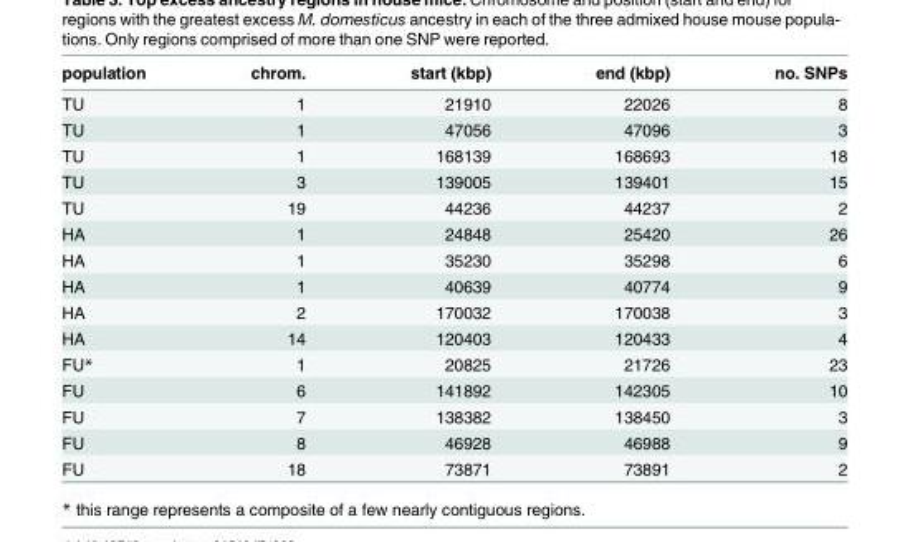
<table><thead><tr><td>population</td><td>chrom.</td><td>start (kbp)</td><td>end (kbp)</td><td>no. SNPs</td></tr></thead><tbody><tr><td>TU</td><td>1</td><td>21910</td><td>22026</td><td>8</td></tr><tr><td>TU</td><td>1</td><td>47056</td><td>47096</td><td>3</td></tr><tr><td>TU</td><td>1</td><td>168139</td><td>168693</td><td>18</td></tr><tr><td>TU</td><td>3</td><td>139005</td><td>139401</td><td>15</td></tr><tr><td>TU</td><td>19</td><td>44236</td><td>44237</td><td>2</td></tr><tr><td>HA</td><td>1</td><td>24848</td><td>25420</td><td>26</td></tr><tr><td>HA</td><td>1</td><td>35230</td><td>35298</td><td>6</td></tr><tr><td>HA</td><td>1</td><td>40639</td><td>40774</td><td>9</td></tr><tr><td>HA</td><td>2</td><td>170032</td><td>170038</td><td>3</td></tr><tr><td>HA</td><td>14</td><td>120403</td><td>120433</td><td>4</td></tr><tr><td>FU*</td><td>1</td><td>20825</td><td>21726</td><td>23</td></tr><tr><td>FU</td><td>6</td><td>141892</td><td>142305</td><td>10</td></tr><tr><td>FU</td><td>7</td><td>138382</td><td>138450</td><td>3</td></tr><tr><td>FU</td><td>8</td><td>46928</td><td>46988</td><td>9</td></tr><tr><td>FU</td><td>18</td><td>73871</td><td>73891</td><td>2</td></tr></tbody></table>